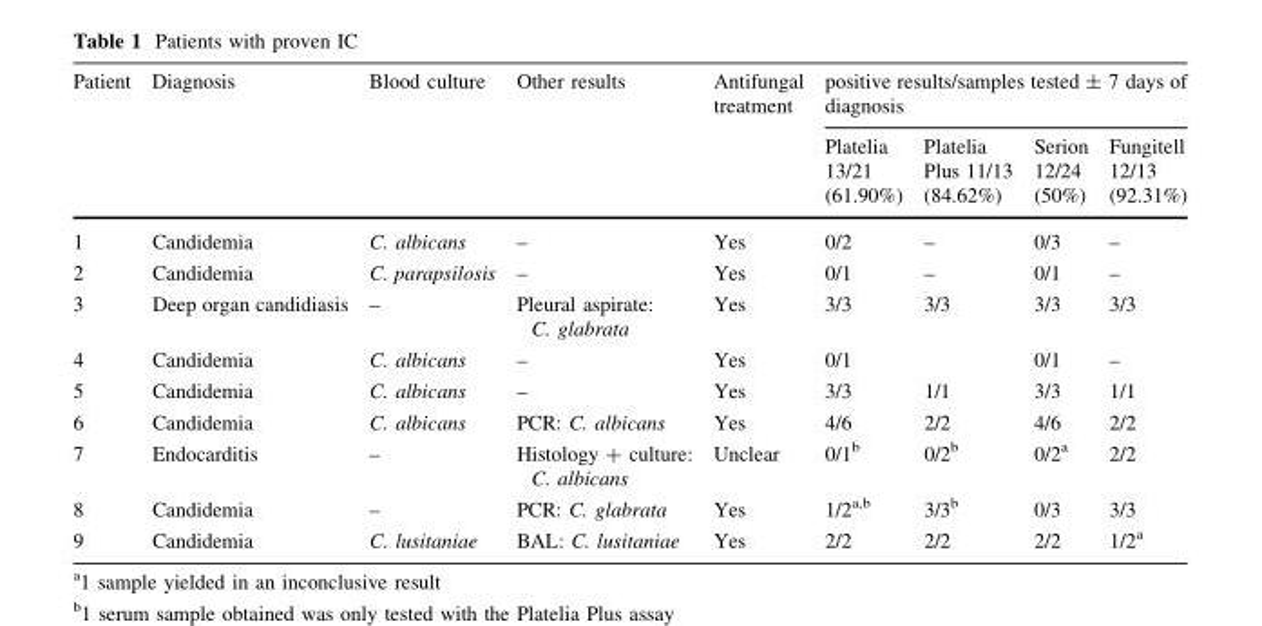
<table><thead><tr><td rowspan="2">Patient</td><td rowspan="2">Diagnosis</td><td rowspan="2">Blood culture</td><td rowspan="2">Other results</td><td rowspan="2">Antifungal treatment</td><td colspan="4">positive results/samples tested ± 7 days of diagnosis</td></tr><tr><td>Platelia 13/21 (61.90%)</td><td>Platelia Plus 11/13 (84.62%)</td><td>Serion 12/24 (50%)</td><td>Fungitell 12/13 (92.31%)</td></tr></thead><tbody><tr><td>1</td><td>Candidemia</td><td>C. albicans</td><td>–</td><td>Yes</td><td>0/2</td><td>–</td><td>0/3</td><td>–</td></tr><tr><td>2</td><td>Candidemia</td><td>C. parapsilosis</td><td>–</td><td>Yes</td><td>0/1</td><td>–</td><td>0/1</td><td>–</td></tr><tr><td>3</td><td>Deep organ candidiasis</td><td>–</td><td>Pleural aspirate: C. glabrata</td><td>Yes</td><td>3/3</td><td>3/3</td><td>3/3</td><td>3/3</td></tr><tr><td>4</td><td>Candidemia</td><td>C. albicans</td><td>–</td><td>Yes</td><td>0/1</td><td></td><td>0/1</td><td>–</td></tr><tr><td>5</td><td>Candidemia</td><td>C. albicans</td><td>–</td><td>Yes</td><td>3/3</td><td>1/1</td><td>3/3</td><td>1/1</td></tr><tr><td>6</td><td>Candidemia</td><td>C. albicans</td><td>PCR: C. albicans</td><td>Yes</td><td>4/6</td><td>2/2</td><td>4/6</td><td>2/2</td></tr><tr><td>7</td><td>Endocarditis</td><td>–</td><td>Histology + culture: C. albicans</td><td>Unclear</td><td>0/1<sup>b</sup></td><td>0/2<sup>b</sup></td><td>0/2<sup>a</sup></td><td>2/2</td></tr><tr><td>8</td><td>Candidemia</td><td>–</td><td>PCR: C. glabrata</td><td>Yes</td><td>1/2<sup>a,b</sup></td><td>3/3<sup>b</sup></td><td>0/3</td><td>3/3</td></tr><tr><td>9</td><td>Candidemia</td><td>C. lusitaniae</td><td>BAL: C. lusitaniae</td><td>Yes</td><td>2/2</td><td>2/2</td><td>2/2</td><td>1/2<sup>a</sup></td></tr></tbody></table>